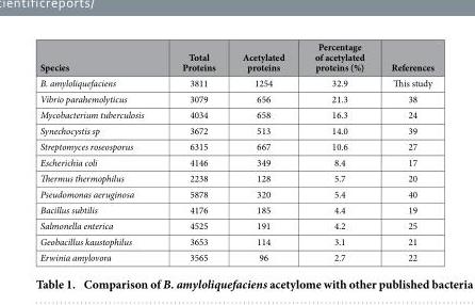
<table><thead><tr><td>Species</td><td>Total Proteins</td><td>Acetylated proteins</td><td>Percentage of acetylated proteins (%)</td><td>References</td></tr></thead><tbody><tr><td>B. amyloliquefaciens</td><td>3811</td><td>1254</td><td>32.9</td><td>This study</td></tr><tr><td>Vibrio parahemolyticus</td><td>3079</td><td>656</td><td>21.3</td><td>38</td></tr><tr><td>Mycobacterium tuberculosis</td><td>4034</td><td>658</td><td>16.3</td><td>24</td></tr><tr><td>Synechocystis sp</td><td>3672</td><td>513</td><td>14.0</td><td>39</td></tr><tr><td>Streptomyces roseosporus</td><td>6315</td><td>667</td><td>10.6</td><td>27</td></tr><tr><td>Escherichia coli</td><td>4146</td><td>349</td><td>8.4</td><td>17</td></tr><tr><td>Thermus thermophilus</td><td>2238</td><td>128</td><td>5.7</td><td>20</td></tr><tr><td>Pseudomonas aeruginosa</td><td>5878</td><td>320</td><td>5.4</td><td>40</td></tr><tr><td>Bacillus subtilis</td><td>4176</td><td>185</td><td>4.4</td><td>19</td></tr><tr><td>Salmonella enterica</td><td>4525</td><td>191</td><td>4.2</td><td>25</td></tr><tr><td>Geobacillus kaustophilus</td><td>3653</td><td>114</td><td>3.1</td><td>21</td></tr><tr><td>Erwinia amylovora</td><td>3565</td><td>96</td><td>2.7</td><td>22</td></tr></tbody></table>